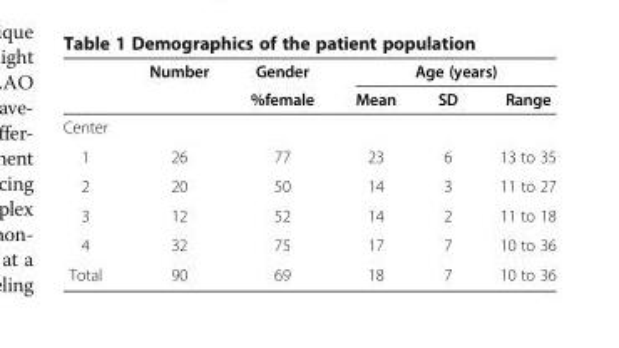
<table><thead><tr><td rowspan="2"></td><td rowspan="2">Number</td><td rowspan="2">Gender %female</td><td colspan="3">Age (years)</td></tr><tr><td>Mean</td><td>SD</td><td>Range</td></tr></thead><tbody><tr><td colspan="6">Center</td></tr><tr><td>1</td><td>26</td><td>77</td><td>23</td><td>6</td><td>13 to 35</td></tr><tr><td>2</td><td>20</td><td>50</td><td>14</td><td>3</td><td>11 to 27</td></tr><tr><td>3</td><td>12</td><td>52</td><td>14</td><td>2</td><td>11 to 18</td></tr><tr><td>4</td><td>32</td><td>75</td><td>17</td><td>7</td><td>10 to 36</td></tr><tr><td>Total</td><td>90</td><td>69</td><td>18</td><td>7</td><td>10 to 36</td></tr></tbody></table>